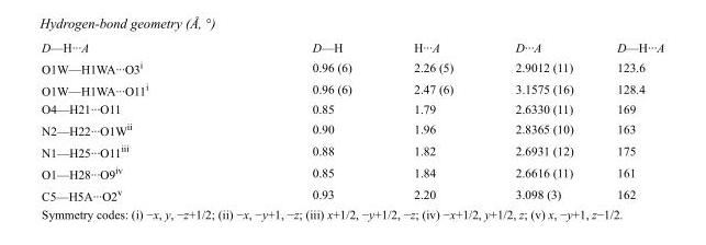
<table><tbody><tr><td>D—H···A</td><td>D—H</td><td>H···A</td><td>D···A</td><td>D—H···A</td></tr><tr><td>O1W—H1WA···O3<sup>i</sup></td><td>0.96 (6)</td><td>2.26 (5)</td><td>2.9012 (11)</td><td>123.6</td></tr><tr><td>O1W—H1WA···O11<sup>i</sup></td><td>0.96 (6)</td><td>2.47 (6)</td><td>3.1575 (16)</td><td>128.4</td></tr><tr><td>O4—H21···O11</td><td>0.85</td><td>1.79</td><td>2.6330 (11)</td><td>169</td></tr><tr><td>N2—H22···O1W<sup>ii</sup></td><td>0.90</td><td>1.96</td><td>2.8365 (10)</td><td>163</td></tr><tr><td>N1—H25···O11<sup>iii</sup></td><td>0.88</td><td>1.82</td><td>2.6931 (12)</td><td>175</td></tr><tr><td>O1—H28···O9<sup>iv</sup></td><td>0.85</td><td>1.84</td><td>2.6616 (11)</td><td>161</td></tr><tr><td>C5—H5A···O2<sup>v</sup></td><td>0.93</td><td>2.20</td><td>3.098 (3)</td><td>162</td></tr></tbody></table>